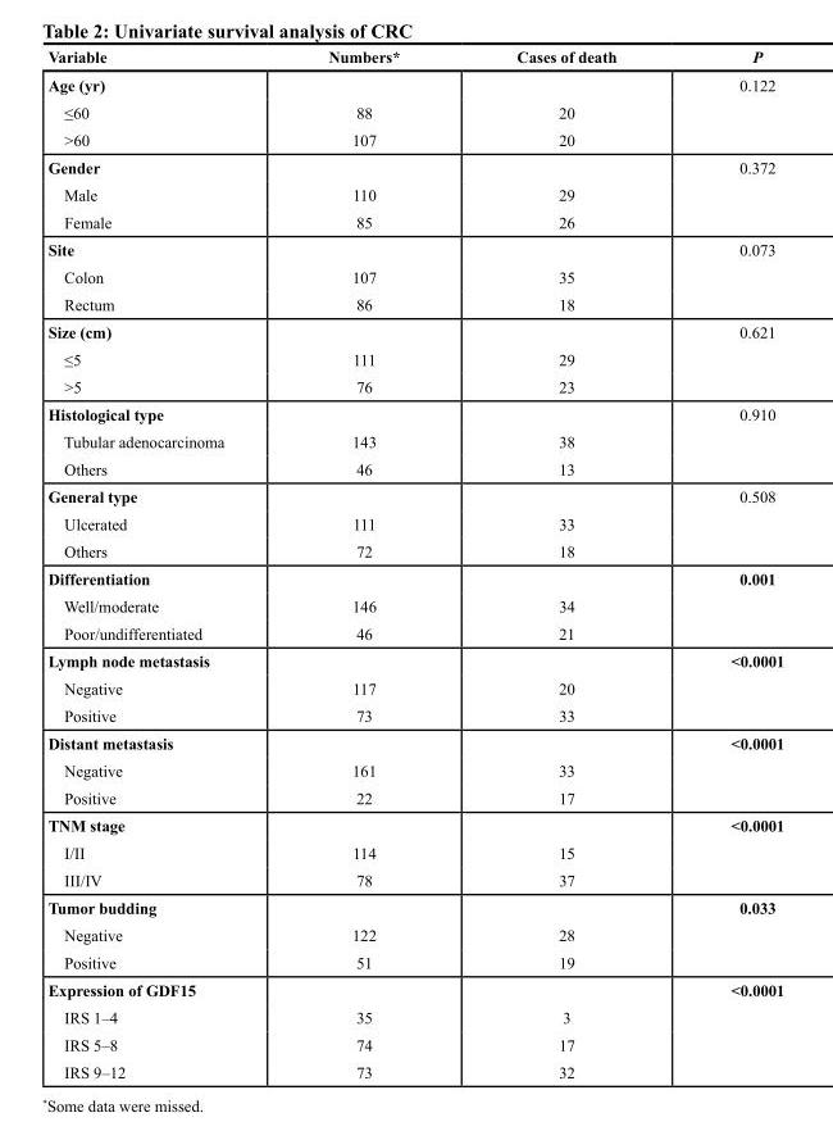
<table><thead><tr><td>Variable</td><td>Numbers*</td><td>Cases of death</td><td>P</td></tr></thead><tbody><tr><td>Age (yr)</td><td></td><td></td><td>0.122</td></tr><tr><td>≤60</td><td>88</td><td>20</td><td></td></tr><tr><td>&gt;60</td><td>107</td><td>20</td><td></td></tr><tr><td>Gender</td><td></td><td></td><td>0.372</td></tr><tr><td>Male</td><td>110</td><td>29</td><td></td></tr><tr><td>Female</td><td>85</td><td>26</td><td></td></tr><tr><td>Site</td><td></td><td></td><td>0.073</td></tr><tr><td>Colon</td><td>107</td><td>35</td><td></td></tr><tr><td>Rectum</td><td>86</td><td>18</td><td></td></tr><tr><td>Size (cm)</td><td></td><td></td><td>0.621</td></tr><tr><td>≤5</td><td>111</td><td>29</td><td></td></tr><tr><td>&gt;5</td><td>76</td><td>23</td><td></td></tr><tr><td>Histological type</td><td></td><td></td><td>0.910</td></tr><tr><td>Tubular adenocarcinoma</td><td>143</td><td>38</td><td></td></tr><tr><td>Others</td><td>46</td><td>13</td><td></td></tr><tr><td>General type</td><td></td><td></td><td>0.508</td></tr><tr><td>Ulcerated</td><td>111</td><td>33</td><td></td></tr><tr><td>Others</td><td>72</td><td>18</td><td></td></tr><tr><td>Differentiation</td><td></td><td></td><td>0.001</td></tr><tr><td>Well/moderate</td><td>146</td><td>34</td><td></td></tr><tr><td>Poor/undifferentiated</td><td>46</td><td>21</td><td></td></tr><tr><td>Lymph node metastasis</td><td></td><td></td><td>&lt;0.0001</td></tr><tr><td>Negative</td><td>117</td><td>20</td><td></td></tr><tr><td>Positive</td><td>73</td><td>33</td><td></td></tr><tr><td>Distant metastasis</td><td></td><td></td><td>&lt;0.0001</td></tr><tr><td>Negative</td><td>161</td><td>33</td><td></td></tr><tr><td>Positive</td><td>22</td><td>17</td><td></td></tr><tr><td>TNM stage</td><td></td><td></td><td>&lt;0.0001</td></tr><tr><td>I/II</td><td>114</td><td>15</td><td></td></tr><tr><td>III/IV</td><td>78</td><td>37</td><td></td></tr><tr><td>Tumor budding</td><td></td><td></td><td>0.033</td></tr><tr><td>Negative</td><td>122</td><td>28</td><td></td></tr><tr><td>Positive</td><td>51</td><td>19</td><td></td></tr><tr><td>Expression of GDF15</td><td></td><td></td><td>&lt;0.0001</td></tr><tr><td>IRS 1–4</td><td>35</td><td>3</td><td></td></tr><tr><td>IRS 5–8</td><td>74</td><td>17</td><td></td></tr><tr><td>IRS 9–12</td><td>73</td><td>32</td><td></td></tr></tbody></table>